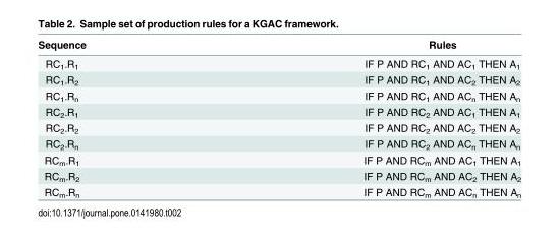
<table><thead><tr><td>Sequence</td><td>Rules</td></tr></thead><tbody><tr><td>RC<sub>1</sub>.R<sub>1</sub></td><td>IF P AND RC<sub>1</sub> AND AC<sub>1</sub> THEN A<sub>1</sub></td></tr><tr><td>RC<sub>1</sub>.R<sub>2</sub></td><td>IF P AND RC<sub>1</sub> AND AC<sub>2</sub> THEN A<sub>2</sub></td></tr><tr><td>RC<sub>1</sub>.R<sub>n</sub></td><td>IF P AND RC<sub>1</sub> AND AC<sub>n</sub> THEN A<sub>n</sub></td></tr><tr><td>RC<sub>2</sub>.R<sub>1</sub></td><td>IF P AND RC<sub>2</sub> AND AC<sub>1</sub> THEN A<sub>1</sub></td></tr><tr><td>RC<sub>2</sub>.R<sub>2</sub></td><td>IF P AND RC<sub>2</sub> AND AC<sub>2</sub> THEN A<sub>2</sub></td></tr><tr><td>RC<sub>2</sub>.R<sub>n</sub></td><td>IF P AND RC<sub>2</sub> AND AC<sub>n</sub> THEN A<sub>n</sub></td></tr><tr><td>RC<sub>m</sub>.R<sub>1</sub></td><td>IF P AND RC<sub>m</sub> AND AC<sub>1</sub> THEN A<sub>1</sub></td></tr><tr><td>RC<sub>m</sub>.R<sub>2</sub></td><td>IF P AND RC<sub>m</sub> AND AC<sub>2</sub> THEN A<sub>2</sub></td></tr><tr><td>RC<sub>m</sub>.R<sub>n</sub></td><td>IF P AND RC<sub>m</sub> AND AC<sub>n</sub> THEN A<sub>n</sub></td></tr></tbody></table>